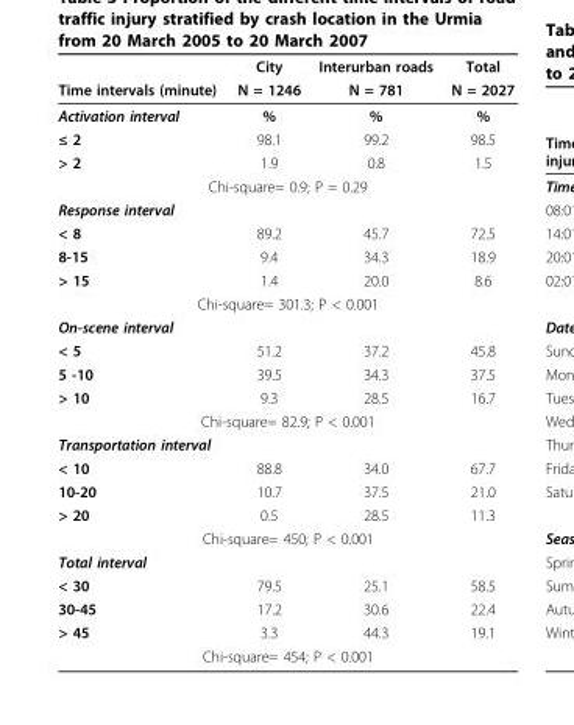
<table><thead><tr><td rowspan="2">Time intervals (minute)</td><td rowspan="2">City N = 1246</td><td rowspan="2">Interurban roads N = 781</td><td rowspan="2">Total N = 2027</td></tr><tr></tr></thead><tbody><tr><td>Activation interval</td><td>%</td><td>%</td><td>%</td></tr><tr><td>≤ 2</td><td>98.1</td><td>99.2</td><td>98.5</td></tr><tr><td>&gt; 2</td><td>1.9</td><td>0.8</td><td>1.5</td></tr><tr><td colspan="4">Chi-square= 0.9; P = 0.29</td></tr><tr><td colspan="4">Response interval</td></tr><tr><td>&lt; 8</td><td>89.2</td><td>45.7</td><td>72.5</td></tr><tr><td>8-15</td><td>9.4</td><td>34.3</td><td>18.9</td></tr><tr><td>&gt; 15</td><td>1.4</td><td>20.0</td><td>8.6</td></tr><tr><td colspan="4">Chi-square= 301.3; P &lt; 0.001</td></tr><tr><td colspan="4">On-scene interval</td></tr><tr><td>&lt; 5</td><td>51.2</td><td>37.2</td><td>45.8</td></tr><tr><td>5 -10</td><td>39.5</td><td>34.3</td><td>37.5</td></tr><tr><td>&gt; 10</td><td>9.3</td><td>28.5</td><td>16.7</td></tr><tr><td colspan="4">Chi-square= 82.9; P &lt; 0.001</td></tr><tr><td colspan="4">Transportation interval</td></tr><tr><td>&lt; 10</td><td>88.8</td><td>34.0</td><td>67.7</td></tr><tr><td>10-20</td><td>10.7</td><td>37.5</td><td>21.0</td></tr><tr><td>&gt; 20</td><td>0.5</td><td>28.5</td><td>11.3</td></tr><tr><td colspan="4">Chi-square= 450; P &lt; 0.001</td></tr><tr><td colspan="4">Total interval</td></tr><tr><td>&lt; 30</td><td>79.5</td><td>25.1</td><td>58.5</td></tr><tr><td>30-45</td><td>17.2</td><td>30.6</td><td>22.4</td></tr><tr><td>&gt; 45</td><td>3.3</td><td>44.3</td><td>19.1</td></tr><tr><td colspan="4">Chi-square= 454; P &lt; 0.001</td></tr></tbody></table>